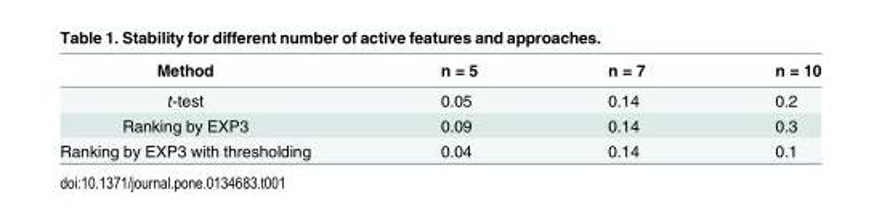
<table><thead><tr><td>Method</td><td>n = 5</td><td>n = 7</td><td>n = 10</td></tr></thead><tbody><tr><td>t-test</td><td>0.05</td><td>0.14</td><td>0.2</td></tr><tr><td>Ranking by EXP3</td><td>0.09</td><td>0.14</td><td>0.3</td></tr><tr><td>Ranking by EXP3 with thresholding</td><td>0.04</td><td>0.14</td><td>0.1</td></tr></tbody></table>